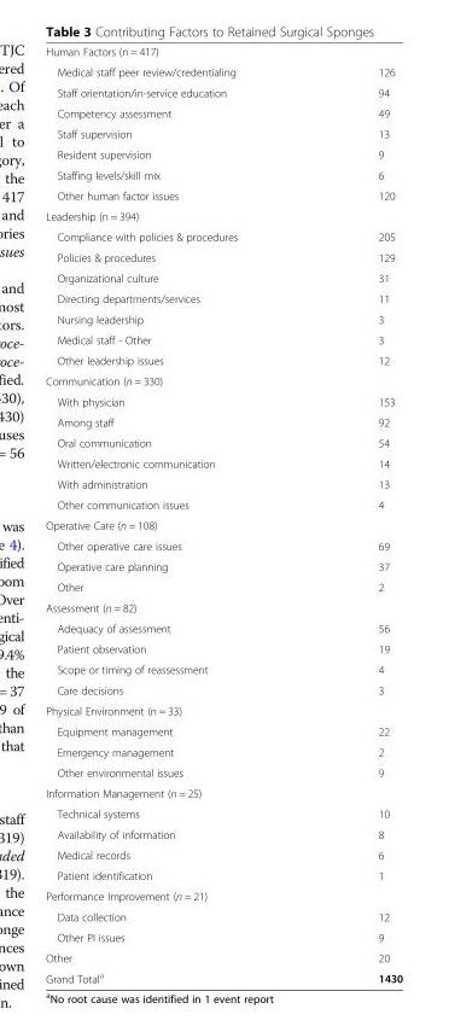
<table><tbody><tr><td colspan="2">Human Factors (n = 417)</td></tr><tr><td>Medical staff peer review/credentialing</td><td>126</td></tr><tr><td>Staff orientation/in-service education</td><td>94</td></tr><tr><td>Competency assessment</td><td>49</td></tr><tr><td>Staff supervision</td><td>13</td></tr><tr><td>Resident supervision</td><td>9</td></tr><tr><td>Staffing levels/skill mix</td><td>6</td></tr><tr><td>Other human factor issues</td><td>120</td></tr><tr><td colspan="2">Leadership (n = 394)</td></tr><tr><td>Compliance with policies &amp; procedures</td><td>205</td></tr><tr><td>Policies &amp; procedures</td><td>129</td></tr><tr><td>Organizational culture</td><td>31</td></tr><tr><td>Directing departments/services</td><td>11</td></tr><tr><td>Nursing leadership</td><td>3</td></tr><tr><td>Medical staff - Other</td><td>3</td></tr><tr><td>Other leadership issues</td><td>12</td></tr><tr><td colspan="2">Communication (n = 330)</td></tr><tr><td>With physician</td><td>153</td></tr><tr><td>Among staff</td><td>92</td></tr><tr><td>Oral communication</td><td>54</td></tr><tr><td>Written/electronic communication</td><td>14</td></tr><tr><td>With administration</td><td>13</td></tr><tr><td>Other communication issues</td><td>4</td></tr><tr><td colspan="2">Operative Care (n = 108)</td></tr><tr><td>Other operative care issues</td><td>69</td></tr><tr><td>Operative care planning</td><td>37</td></tr><tr><td>Other</td><td>2</td></tr><tr><td colspan="2">Assessment (n = 82)</td></tr><tr><td>Adequacy of assessment</td><td>56</td></tr><tr><td>Patient observation</td><td>19</td></tr><tr><td>Scope or timing of reassessment</td><td>4</td></tr><tr><td>Care decisions</td><td>3</td></tr><tr><td colspan="2">Physical Environment (n = 33)</td></tr><tr><td>Equipment management</td><td>22</td></tr><tr><td>Emergency management</td><td>2</td></tr><tr><td>Other environmental issues</td><td>9</td></tr><tr><td colspan="2">Information Management (n = 25)</td></tr><tr><td>Technical systems</td><td>10</td></tr><tr><td>Availability of information</td><td>8</td></tr><tr><td>Medical records</td><td>6</td></tr><tr><td>Patient identification</td><td>1</td></tr><tr><td colspan="2">Performance Improvement (n = 21)</td></tr><tr><td>Data collection</td><td>12</td></tr><tr><td>Other PI issues</td><td>9</td></tr><tr><td>Other</td><td>20</td></tr><tr><td>Grand Total<sup>a</sup></td><td>1430</td></tr></tbody></table>